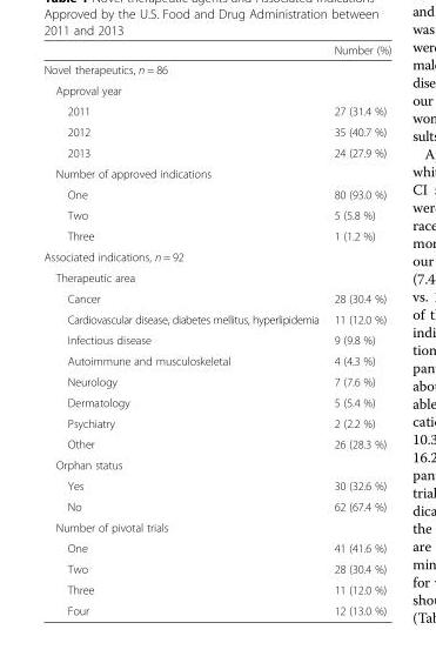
<table><thead><tr><td></td><td>Number (%)</td></tr></thead><tbody><tr><td colspan="2">Novel therapeutics, n = 86</td></tr><tr><td colspan="2">Approval year</td></tr><tr><td>2011</td><td>27 (31.4 %)</td></tr><tr><td>2012</td><td>35 (40.7 %)</td></tr><tr><td>2013</td><td>24 (27.9 %)</td></tr><tr><td colspan="2">Number of approved indications</td></tr><tr><td>One</td><td>80 (93.0 %)</td></tr><tr><td>Two</td><td>5 (5.8 %)</td></tr><tr><td>Three</td><td>1 (1.2 %)</td></tr><tr><td colspan="2">Associated indications, n = 92</td></tr><tr><td colspan="2">Therapeutic area</td></tr><tr><td>Cancer</td><td>28 (30.4 %)</td></tr><tr><td>Cardiovascular disease, diabetes mellitus, hyperlipidemia</td><td>11 (12.0 %)</td></tr><tr><td>Infectious disease</td><td>9 (9.8 %)</td></tr><tr><td>Autoimmune and musculoskeletal</td><td>4 (4.3 %)</td></tr><tr><td>Neurology</td><td>7 (7.6 %)</td></tr><tr><td>Dermatology</td><td>5 (5.4 %)</td></tr><tr><td>Psychiatry</td><td>2 (2.2 %)</td></tr><tr><td>Other</td><td>26 (28.3 %)</td></tr><tr><td colspan="2">Orphan status</td></tr><tr><td>Yes</td><td>30 (32.6 %)</td></tr><tr><td>No</td><td>62 (67.4 %)</td></tr><tr><td colspan="2">Number of pivotal trials</td></tr><tr><td>One</td><td>41 (41.6 %)</td></tr><tr><td>Two</td><td>28 (30.4 %)</td></tr><tr><td>Three</td><td>11 (12.0 %)</td></tr><tr><td>Four</td><td>12 (13.0 %)</td></tr></tbody></table>